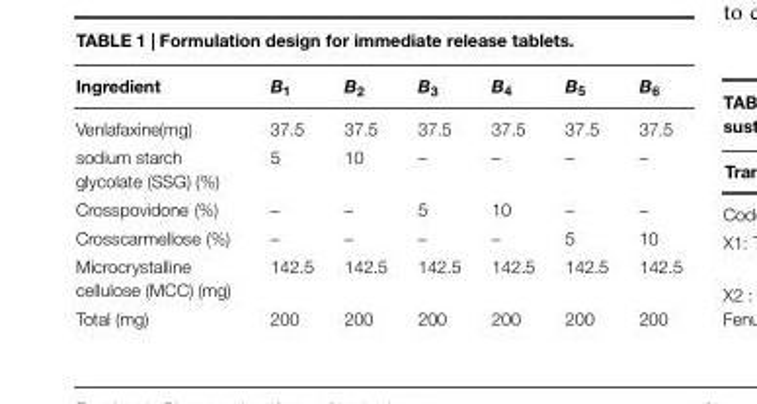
<table><thead><tr><td>Ingredient</td><td>B<sub>1</sub></td><td>B<sub>2</sub></td><td>B<sub>3</sub></td><td>B<sub>4</sub></td><td>B<sub>5</sub></td><td>B<sub>6</sub></td></tr></thead><tbody><tr><td>Venlafaxine(mg)</td><td>37.5</td><td>37.5</td><td>37.5</td><td>37.5</td><td>37.5</td><td>37.5</td></tr><tr><td>sodium starch glycolate (SSG) (%)</td><td>5</td><td>10</td><td>–</td><td>–</td><td>–</td><td>–</td></tr><tr><td>Crosspovidone (%)</td><td>–</td><td>–</td><td>5</td><td>10</td><td>–</td><td>–</td></tr><tr><td>Crosscarmellose (%)</td><td>–</td><td>–</td><td>–</td><td>–</td><td>5</td><td>10</td></tr><tr><td>Microcrystalline cellulose (MCC) (mg)</td><td>142.5</td><td>142.5</td><td>142.5</td><td>142.5</td><td>142.5</td><td>142.5</td></tr><tr><td>Total (mg)</td><td>200</td><td>200</td><td>200</td><td>200</td><td>200</td><td>200</td></tr></tbody></table>